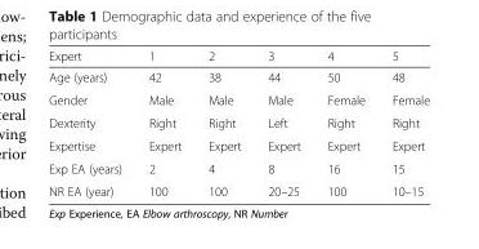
<table><thead><tr><td>Expert</td><td>1</td><td>2</td><td>3</td><td>4</td><td>5</td></tr></thead><tbody><tr><td>Age (years)</td><td>42</td><td>38</td><td>44</td><td>50</td><td>48</td></tr><tr><td>Gender</td><td>Male</td><td>Male</td><td>Male</td><td>Female</td><td>Female</td></tr><tr><td>Dexterity</td><td>Right</td><td>Right</td><td>Left</td><td>Right</td><td>Right</td></tr><tr><td>Expertise</td><td>Expert</td><td>Expert</td><td>Expert</td><td>Expert</td><td>Expert</td></tr><tr><td>Exp EA (years)</td><td>2</td><td>4</td><td>8</td><td>16</td><td>15</td></tr><tr><td>NR EA (year)</td><td>100</td><td>100</td><td>20–25</td><td>100</td><td>10–15</td></tr></tbody></table>